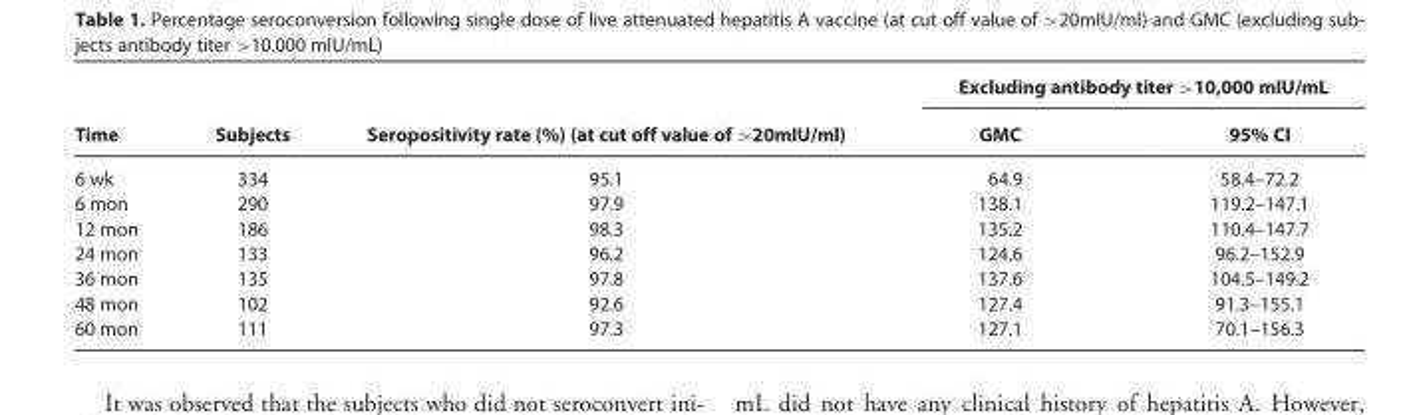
<table><thead><tr><td rowspan="2">Time</td><td rowspan="2">Subjects</td><td rowspan="2">Seropositivity rate (%) (at cut off value of &gt;20mIU/ml)</td><td colspan="2">Excluding antibody titer &gt;10,000 mIU/mL</td></tr><tr><td>GMC</td><td>95% CI</td></tr></thead><tbody><tr><td>6 wk</td><td>334</td><td>95.1</td><td>64.9</td><td>58.4–72.2</td></tr><tr><td>6 mon</td><td>290</td><td>97.9</td><td>138.1</td><td>119.2–147.1</td></tr><tr><td>12 mon</td><td>186</td><td>98.3</td><td>135.2</td><td>110.4–147.7</td></tr><tr><td>24 mon</td><td>133</td><td>96.2</td><td>124.6</td><td>96.2–152.9</td></tr><tr><td>36 mon</td><td>135</td><td>97.8</td><td>137.6</td><td>104.5–149.2</td></tr><tr><td>48 mon</td><td>102</td><td>92.6</td><td>127.4</td><td>91.3–155.1</td></tr><tr><td>60 mon</td><td>111</td><td>97.3</td><td>127.1</td><td>70.1–156.3</td></tr></tbody></table>